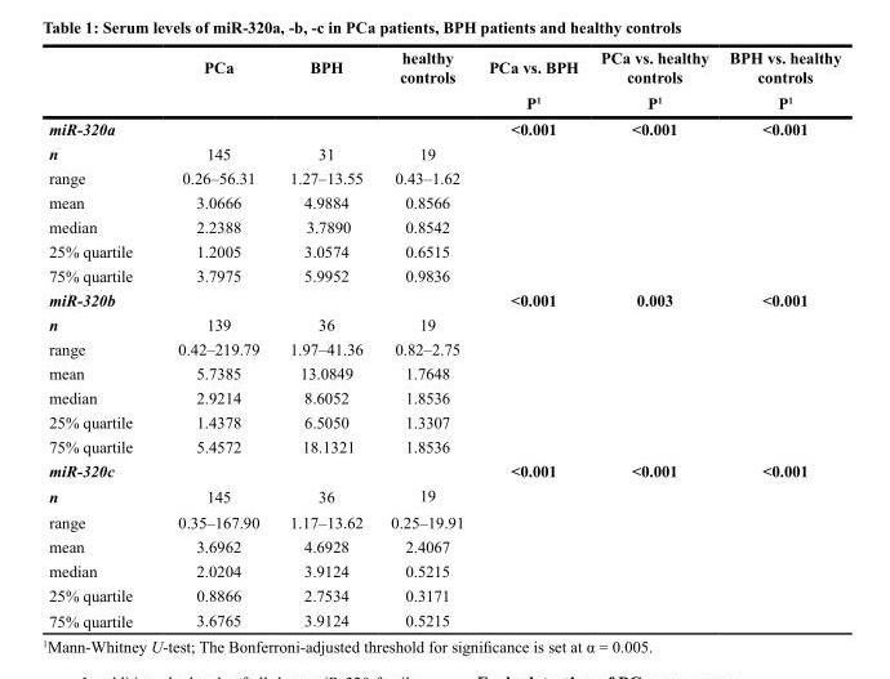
<table><thead><tr><td rowspan="2"></td><td rowspan="2">PCa</td><td rowspan="2">BPH</td><td rowspan="2">healthy controls</td><td rowspan="2">PCa vs. BPH P<sup>1</sup></td><td rowspan="2">PCa vs. healthy controls P<sup>1</sup></td><td rowspan="2">BPH vs. healthy controls P<sup>1</sup></td></tr><tr></tr></thead><tbody><tr><td>miR-320a</td><td></td><td></td><td></td><td>&lt;0.001</td><td>&lt;0.001</td><td>&lt;0.001</td></tr><tr><td>n</td><td>145</td><td>31</td><td>19</td><td></td><td></td><td></td></tr><tr><td>range</td><td>0.26–56.31</td><td>1.27–13.55</td><td>0.43–1.62</td><td></td><td></td><td></td></tr><tr><td>mean</td><td>3.0666</td><td>4.9884</td><td>0.8566</td><td></td><td></td><td></td></tr><tr><td>median</td><td>2.2388</td><td>3.7890</td><td>0.8542</td><td></td><td></td><td></td></tr><tr><td>25% quartile</td><td>1.2005</td><td>3.0574</td><td>0.6515</td><td></td><td></td><td></td></tr><tr><td>75% quartile</td><td>3.7975</td><td>5.9952</td><td>0.9836</td><td></td><td></td><td></td></tr><tr><td>miR-320b</td><td></td><td></td><td></td><td>&lt;0.001</td><td>0.003</td><td>&lt;0.001</td></tr><tr><td>n</td><td>139</td><td>36</td><td>19</td><td></td><td></td><td></td></tr><tr><td>range</td><td>0.42–219.79</td><td>1.97–41.36</td><td>0.82–2.75</td><td></td><td></td><td></td></tr><tr><td>mean</td><td>5.7385</td><td>13.0849</td><td>1.7648</td><td></td><td></td><td></td></tr><tr><td>median</td><td>2.9214</td><td>8.6052</td><td>1.8536</td><td></td><td></td><td></td></tr><tr><td>25% quartile</td><td>1.4378</td><td>6.5050</td><td>1.3307</td><td></td><td></td><td></td></tr><tr><td>75% quartile</td><td>5.4572</td><td>18.1321</td><td>1.8536</td><td></td><td></td><td></td></tr><tr><td>miR-320c</td><td></td><td></td><td></td><td>&lt;0.001</td><td>&lt;0.001</td><td>&lt;0.001</td></tr><tr><td>n</td><td>145</td><td>36</td><td>19</td><td></td><td></td><td></td></tr><tr><td>range</td><td>0.35–167.90</td><td>1.17–13.62</td><td>0.25–19.91</td><td></td><td></td><td></td></tr><tr><td>mean</td><td>3.6962</td><td>4.6928</td><td>2.4067</td><td></td><td></td><td></td></tr><tr><td>median</td><td>2.0204</td><td>3.9124</td><td>0.5215</td><td></td><td></td><td></td></tr><tr><td>25% quartile</td><td>0.8866</td><td>2.7534</td><td>0.3171</td><td></td><td></td><td></td></tr><tr><td>75% quartile</td><td>3.6765</td><td>3.9124</td><td>0.5215</td><td></td><td></td><td></td></tr></tbody></table>